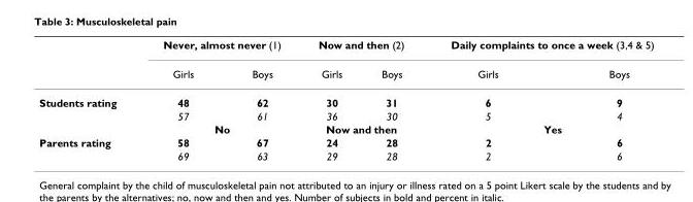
<table><thead><tr><td rowspan="2"></td><td colspan="2">Never, almost never (1)</td><td colspan="2">Now and then (2)</td><td colspan="2">Daily complaints to once a week (3,4 &amp; 5)</td></tr><tr><td>Girls</td><td>Boys</td><td>Girls</td><td>Boys</td><td>Girls</td><td>Boys</td></tr></thead><tbody><tr><td rowspan="3">Students rating</td><td>48</td><td>62</td><td>30</td><td>31</td><td>6</td><td>9</td></tr><tr><td>57</td><td>61</td><td>36</td><td>30</td><td>5</td><td>4</td></tr><tr><td colspan="2">No</td><td colspan="2">Now and then</td><td colspan="2">Yes</td></tr><tr><td rowspan="2">Parents rating</td><td>58</td><td>67</td><td>24</td><td>28</td><td>2</td><td>6</td></tr><tr><td>69</td><td>63</td><td>29</td><td>28</td><td>2</td><td>6</td></tr></tbody></table>